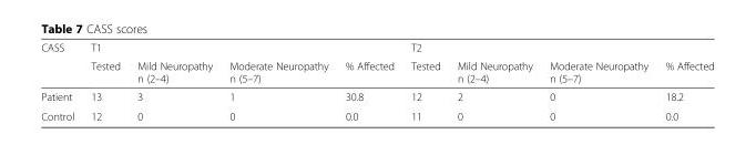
<table><thead><tr><td rowspan="2">CASS</td><td colspan="4">T1</td><td colspan="4">T2</td></tr><tr><td>Tested</td><td>Mild Neuropathy n (2–4)</td><td>Moderate Neuropathy n (5–7)</td><td>% Affected</td><td>Tested</td><td>Mild Neuropathy n (2–4)</td><td>Moderate Neuropathy n (5–7)</td><td>% Affected</td></tr></thead><tbody><tr><td>Patient</td><td>13</td><td>3</td><td>1</td><td>30.8</td><td>12</td><td>2</td><td>0</td><td>18.2</td></tr><tr><td>Control</td><td>12</td><td>0</td><td>0</td><td>0.0</td><td>11</td><td>0</td><td>0</td><td>0.0</td></tr></tbody></table>